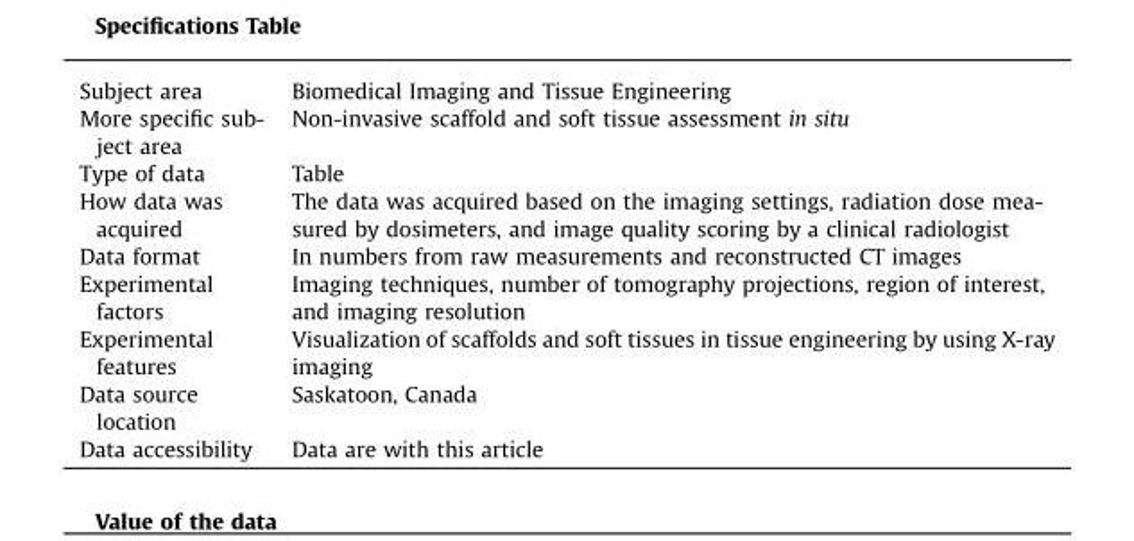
<table><tbody><tr><td>Subject area</td><td>Biomedical Imaging and Tissue Engineering</td></tr><tr><td>More specific sub- ject area</td><td>Non-invasive scaffold and soft tissue assessment in situ</td></tr><tr><td>Type of data</td><td>Table</td></tr><tr><td>How data was acquired</td><td>The data was acquired based on the imaging settings, radiation dose mea- sured by dosimeters, and image quality scoring by a clinical radiologist</td></tr><tr><td>Data format</td><td>In numbers from raw measurements and reconstructed CT images</td></tr><tr><td>Experimental factors</td><td>Imaging techniques, number of tomography projections, region of interest, and imaging resolution</td></tr><tr><td>Experimental features</td><td>Visualization of scaffolds and soft tissues in tissue engineering by using X-ray imaging</td></tr><tr><td>Data source location</td><td>Saskatoon, Canada</td></tr><tr><td>Data accessibility</td><td>Data are with this article</td></tr></tbody></table>